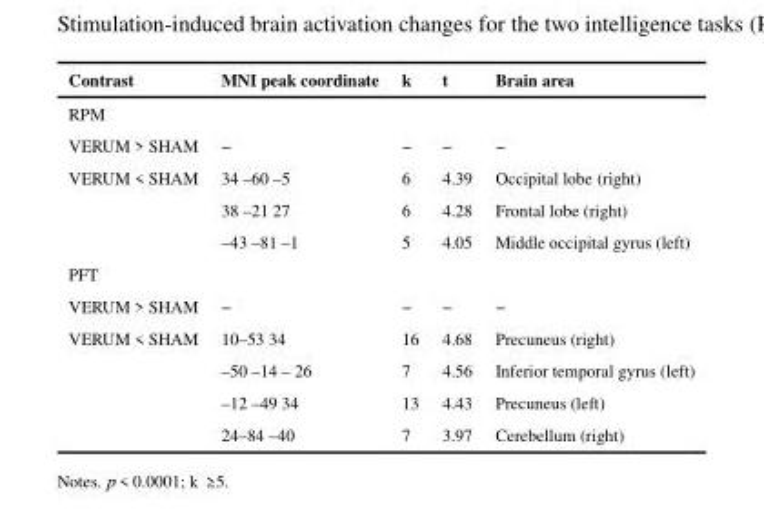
<table><thead><tr><td>Contrast</td><td>MNI peak coordinate</td><td>k</td><td>t</td><td>Brain area</td></tr></thead><tbody><tr><td colspan="5">RPM</td></tr><tr><td>VERUM &gt; SHAM</td><td>−</td><td>−</td><td>−</td><td>−</td></tr><tr><td rowspan="3">VERUM &lt; SHAM</td><td>34 –60 –5</td><td>6</td><td>4.39</td><td>Occipital lobe (right)</td></tr><tr><td>38 –21 27</td><td>6</td><td>4.28</td><td>Frontal lobe (right)</td></tr><tr><td>–43 –81 –1</td><td>5</td><td>4.05</td><td>Middle occipital gyrus (left)</td></tr><tr><td colspan="5">PFT</td></tr><tr><td>VERUM &gt; SHAM</td><td>−</td><td>−</td><td>−</td><td>−</td></tr><tr><td rowspan="4">VERUM &lt; SHAM</td><td>10–53 34</td><td>16</td><td>4.68</td><td>Precuneus (right)</td></tr><tr><td>–50 –14 – 26</td><td>7</td><td>4.56</td><td>Inferior temporal gyrus (left)</td></tr><tr><td>–12 –49 34</td><td>13</td><td>4.43</td><td>Precuneus (left)</td></tr><tr><td>24–84 –40</td><td>7</td><td>3.97</td><td>Cerebellum (right)</td></tr></tbody></table>